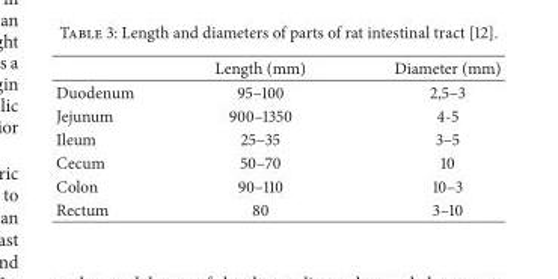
<table><thead><tr><td></td><td>Length (mm)</td><td>Diameter (mm)</td></tr></thead><tbody><tr><td>Duodenum</td><td>95–100</td><td>2,5–3</td></tr><tr><td>Jejunum</td><td>900–1350</td><td>4-5</td></tr><tr><td>Ileum</td><td>25–35</td><td>3–5</td></tr><tr><td>Cecum</td><td>50–70</td><td>10</td></tr><tr><td>Colon</td><td>90–110</td><td>10–3</td></tr><tr><td>Rectum</td><td>80</td><td>3–10</td></tr></tbody></table>